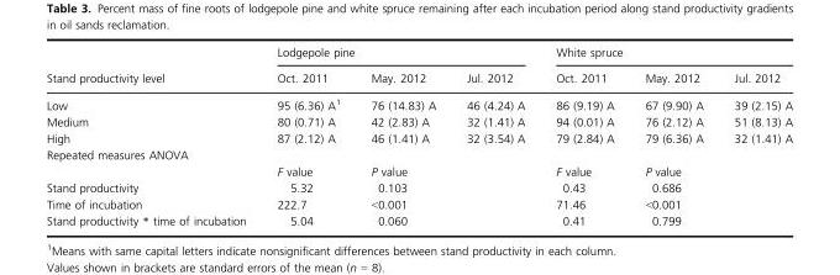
<table><thead><tr><td rowspan="2">Stand productivity level</td><td colspan="3">Lodgepole pine</td><td colspan="3">White spruce</td></tr><tr><td>Oct. 2011</td><td>May. 2012</td><td>Jul. 2012</td><td>Oct. 2011</td><td>May. 2012</td><td>Jul. 2012</td></tr></thead><tbody><tr><td>Low</td><td>95 (6.36) A1</td><td>76 (14.83) A</td><td>46 (4.24) A</td><td>86 (9.19) A</td><td>67 (9.90) A</td><td>39 (2.15) A</td></tr><tr><td>Medium</td><td>80 (0.71) A</td><td>42 (2.83) A</td><td>32 (1.41) A</td><td>94 (0.01) A</td><td>76 (2.12) A</td><td>51 (8.13) A</td></tr><tr><td>High</td><td>87 (2.12) A</td><td>46 (1.41) A</td><td>32 (3.54) A</td><td>79 (2.84) A</td><td>79 (6.36) A</td><td>32 (1.41) A</td></tr><tr><td colspan="7">Repeated measures ANOVA</td></tr><tr><td></td><td>F value</td><td>P value</td><td></td><td>F value</td><td>P value</td><td></td></tr><tr><td>Stand productivity</td><td>5.32</td><td>0.103</td><td></td><td>0.43</td><td>0.686</td><td></td></tr><tr><td>Time of incubation</td><td>222.7</td><td>&lt;0.001</td><td></td><td>71.46</td><td>&lt;0.001</td><td></td></tr><tr><td>Stand productivity * time of incubation</td><td>5.04</td><td>0.060</td><td></td><td>0.41</td><td>0.799</td><td></td></tr></tbody></table>